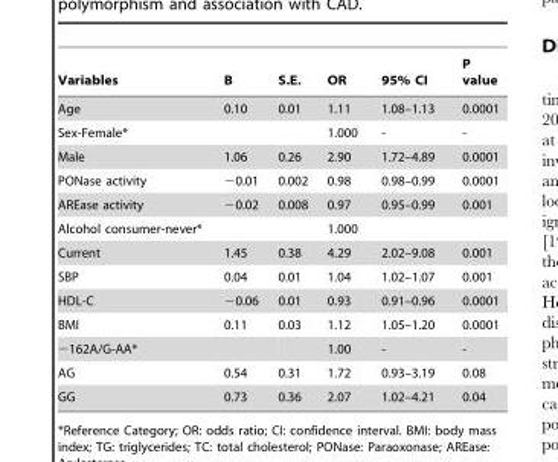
<table><thead><tr><td>Variables</td><td>B</td><td>S.E.</td><td>OR</td><td>95% CI</td><td>P value</td></tr></thead><tbody><tr><td>Age</td><td>0.10</td><td>0.01</td><td>1.11</td><td>1.08–1.13</td><td>0.0001</td></tr><tr><td>Sex-Female*</td><td></td><td></td><td>1.000</td><td>-</td><td>-</td></tr><tr><td>Male</td><td>1.06</td><td>0.26</td><td>2.90</td><td>1.72–4.89</td><td>0.0001</td></tr><tr><td>PONase activity</td><td>−0.01</td><td>0.002</td><td>0.98</td><td>0.98–0.99</td><td>0.0001</td></tr><tr><td>AREase activity</td><td>−0.02</td><td>0.008</td><td>0.97</td><td>0.95–0.99</td><td>0.001</td></tr><tr><td>Alcohol consumer-never*</td><td></td><td></td><td>1.000</td><td></td><td></td></tr><tr><td>Current</td><td>1.45</td><td>0.38</td><td>4.29</td><td>2.02–9.08</td><td>0.001</td></tr><tr><td>SBP</td><td>0.04</td><td>0.01</td><td>1.04</td><td>1.02–1.07</td><td>0.001</td></tr><tr><td>HDL-C</td><td>−0.06</td><td>0.01</td><td>0.93</td><td>0.91–0.96</td><td>0.0001</td></tr><tr><td>BMI</td><td>0.11</td><td>0.03</td><td>1.12</td><td>1.05–1.20</td><td>0.0001</td></tr><tr><td>−162A/G-AA*</td><td></td><td></td><td>1.00</td><td>-</td><td>-</td></tr><tr><td>AG</td><td>0.54</td><td>0.31</td><td>1.72</td><td>0.93–3.19</td><td>0.08</td></tr><tr><td>GG</td><td>0.73</td><td>0.36</td><td>2.07</td><td>1.02–4.21</td><td>0.04</td></tr></tbody></table>